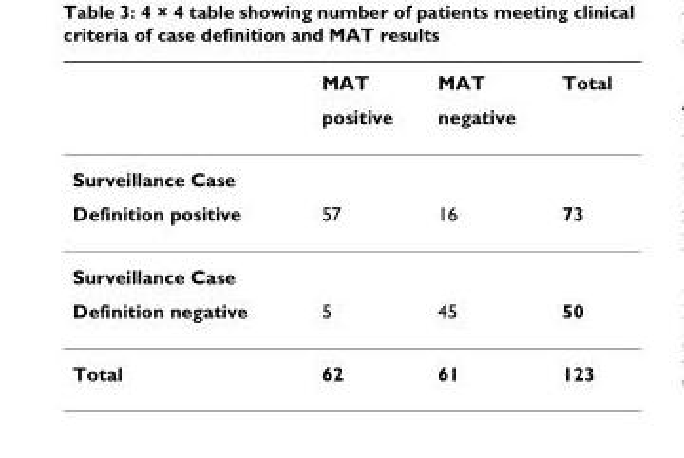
<table><thead><tr><td rowspan="2"></td><td rowspan="2">MAT positive</td><td rowspan="2">MAT negative</td><td rowspan="2">Total</td></tr><tr></tr></thead><tbody><tr><td colspan="4">Surveillance Case</td></tr><tr><td>Definition positive</td><td>57</td><td>16</td><td>73</td></tr><tr><td colspan="4">Surveillance Case</td></tr><tr><td>Definition negative</td><td>5</td><td>45</td><td>50</td></tr><tr><td>Total</td><td>62</td><td>61</td><td>123</td></tr></tbody></table>